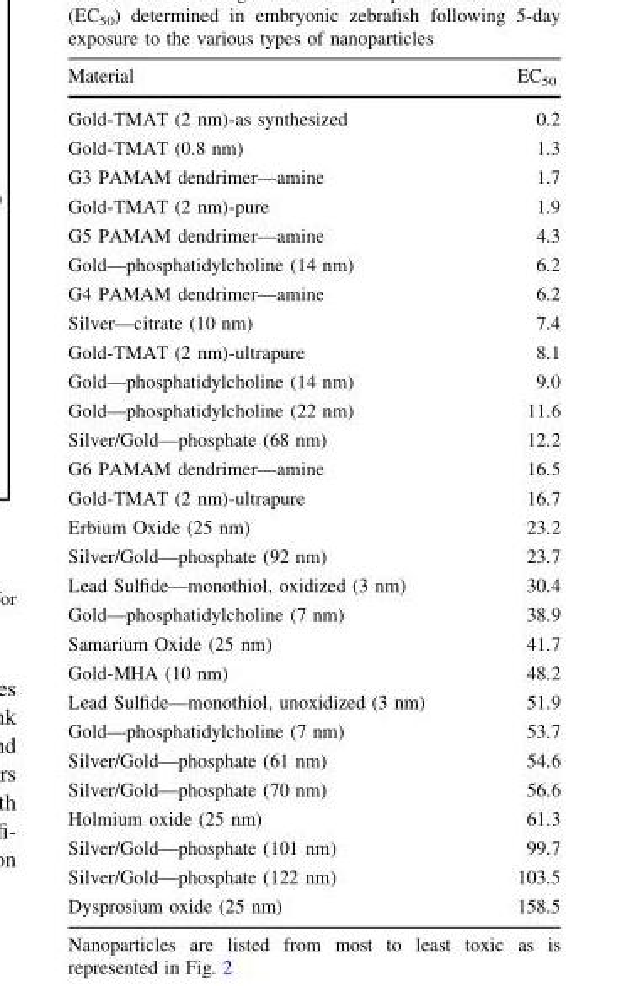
<table><thead><tr><td>Material</td><td>EC<sub>50</sub></td></tr></thead><tbody><tr><td>Gold-TMAT (2 nm)-as synthesized</td><td>0.2</td></tr><tr><td>Gold-TMAT (0.8 nm)</td><td>1.3</td></tr><tr><td>G3 PAMAM dendrimer—amine</td><td>1.7</td></tr><tr><td>Gold-TMAT (2 nm)-pure</td><td>1.9</td></tr><tr><td>G5 PAMAM dendrimer—amine</td><td>4.3</td></tr><tr><td>Gold—phosphatidylcholine (14 nm)</td><td>6.2</td></tr><tr><td>G4 PAMAM dendrimer—amine</td><td>6.2</td></tr><tr><td>Silver—citrate (10 nm)</td><td>7.4</td></tr><tr><td>Gold-TMAT (2 nm)-ultrapure</td><td>8.1</td></tr><tr><td>Gold—phosphatidylcholine (14 nm)</td><td>9.0</td></tr><tr><td>Gold—phosphatidylcholine (22 nm)</td><td>11.6</td></tr><tr><td>Silver/Gold—phosphate (68 nm)</td><td>12.2</td></tr><tr><td>G6 PAMAM dendrimer—amine</td><td>16.5</td></tr><tr><td>Gold-TMAT (2 nm)-ultrapure</td><td>16.7</td></tr><tr><td>Erbium Oxide (25 nm)</td><td>23.2</td></tr><tr><td>Silver/Gold—phosphate (92 nm)</td><td>23.7</td></tr><tr><td>Lead Sulfide—monothiol, oxidized (3 nm)</td><td>30.4</td></tr><tr><td>Gold—phosphatidylcholine (7 nm)</td><td>38.9</td></tr><tr><td>Samarium Oxide (25 nm)</td><td>41.7</td></tr><tr><td>Gold-MHA (10 nm)</td><td>48.2</td></tr><tr><td>Lead Sulfide—monothiol, unoxidized (3 nm)</td><td>51.9</td></tr><tr><td>Gold—phosphatidylcholine (7 nm)</td><td>53.7</td></tr><tr><td>Silver/Gold—phosphate (61 nm)</td><td>54.6</td></tr><tr><td>Silver/Gold—phosphate (70 nm)</td><td>56.6</td></tr><tr><td>Holmium oxide (25 nm)</td><td>61.3</td></tr><tr><td>Silver/Gold—phosphate (101 nm)</td><td>99.7</td></tr><tr><td>Silver/Gold—phosphate (122 nm)</td><td>103.5</td></tr><tr><td>Dysprosium oxide (25 nm)</td><td>158.5</td></tr></tbody></table>